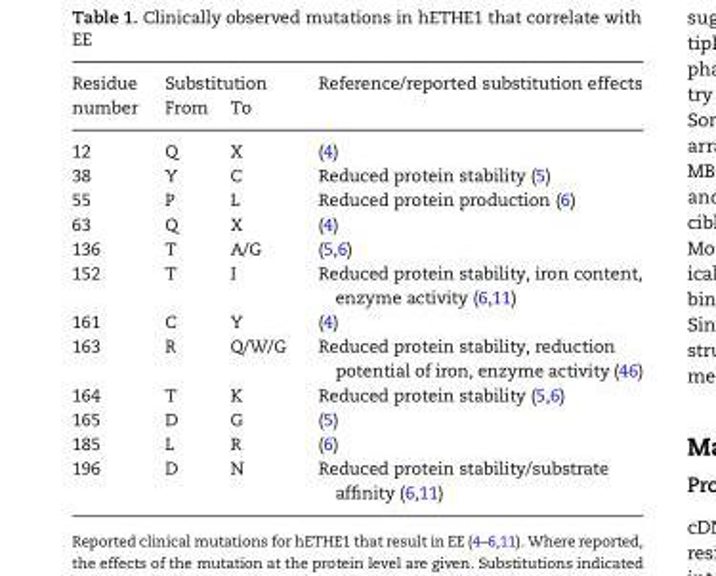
<table><thead><tr><td rowspan="2">Residue number</td><td colspan="2">Substitution</td><td rowspan="2">Reference/reported substitution effects</td></tr><tr><td>From</td><td>To</td></tr></thead><tbody><tr><td>12</td><td>Q</td><td>X</td><td>(4)</td></tr><tr><td>38</td><td>Y</td><td>C</td><td>Reduced protein stability (5)</td></tr><tr><td>55</td><td>P</td><td>L</td><td>Reduced protein production (6)</td></tr><tr><td>63</td><td>Q</td><td>X</td><td>(4)</td></tr><tr><td>136</td><td>T</td><td>A/G</td><td>(5,6)</td></tr><tr><td>152</td><td>T</td><td>I</td><td>Reduced protein stability, iron content, enzyme activity (6,11)</td></tr><tr><td>161</td><td>C</td><td>Y</td><td>(4)</td></tr><tr><td>163</td><td>R</td><td>Q/W/G</td><td>Reduced protein stability, reduction potential of iron, enzyme activity (46)</td></tr><tr><td>164</td><td>T</td><td>K</td><td>Reduced protein stability (5,6)</td></tr><tr><td>165</td><td>D</td><td>G</td><td>(5)</td></tr><tr><td>185</td><td>L</td><td>R</td><td>(6)</td></tr><tr><td>196</td><td>D</td><td>N</td><td>Reduced protein stability/substrate affinity (6,11)</td></tr></tbody></table>